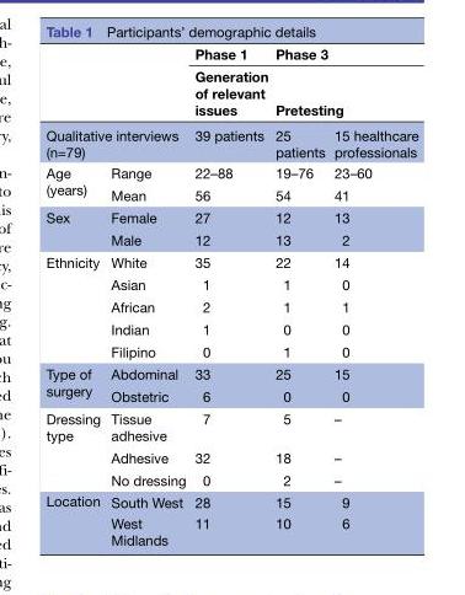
<table><thead><tr><td rowspan="2"></td><td rowspan="2"></td><td rowspan="3">Phase 1 Generation of relevant issues 39 patients</td><td rowspan="2" colspan="2">Phase 3 Pretesting</td></tr><tr></tr><tr><td colspan="2">Qualitative interviews (n=79)</td><td>25 patients</td><td>15 healthcare professionals</td></tr></thead><tbody><tr><td rowspan="2">Age (years)</td><td>Range</td><td>22–88</td><td>19–76</td><td>23–60</td></tr><tr><td>Mean</td><td>56</td><td>54</td><td>41</td></tr><tr><td rowspan="2">Sex</td><td>Female</td><td>27</td><td>12</td><td>13</td></tr><tr><td>Male</td><td>12</td><td>13</td><td>2</td></tr><tr><td rowspan="5">Ethnicity</td><td>White</td><td>35</td><td>22</td><td>14</td></tr><tr><td>Asian</td><td>1</td><td>1</td><td>0</td></tr><tr><td>African</td><td>2</td><td>1</td><td>1</td></tr><tr><td>Indian</td><td>1</td><td>0</td><td>0</td></tr><tr><td>Filipino</td><td>0</td><td>1</td><td>0</td></tr><tr><td rowspan="2">Type of surgery</td><td>Abdominal</td><td>33</td><td>25</td><td>15</td></tr><tr><td>Obstetric</td><td>6</td><td>0</td><td>0</td></tr><tr><td rowspan="3">Dressing type</td><td>Tissue adhesive</td><td>7</td><td>5</td><td>–</td></tr><tr><td>Adhesive</td><td>32</td><td>18</td><td>–</td></tr><tr><td>No dressing</td><td>0</td><td>2</td><td>–</td></tr><tr><td rowspan="2">Location</td><td>South West</td><td>28</td><td>15</td><td>9</td></tr><tr><td>West Midlands</td><td>11</td><td>10</td><td>6</td></tr></tbody></table>